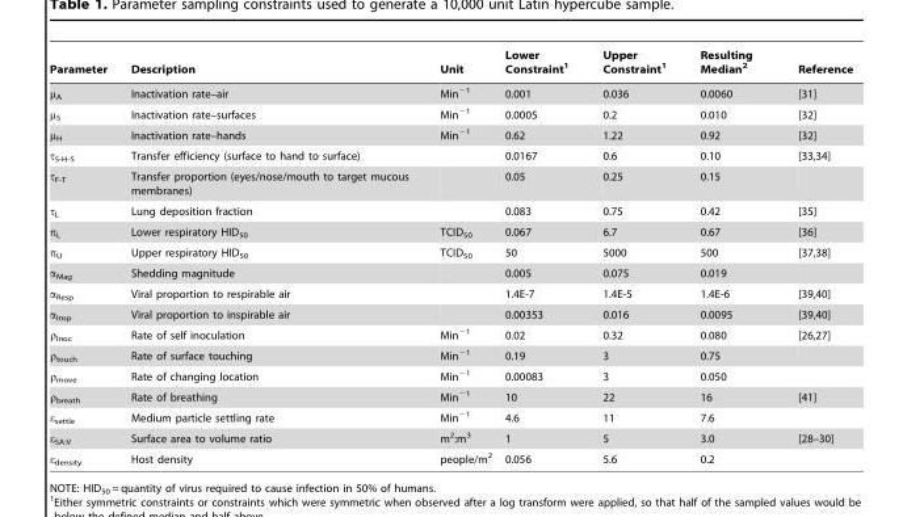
<table><thead><tr><td>Parameter</td><td>Description</td><td>Unit</td><td>Lower Constraint<sup>1</sup></td><td>Upper Constraint<sup>1</sup></td><td>Resulting Median<sup>2</sup></td><td>Reference</td></tr></thead><tbody><tr><td>μ<sub>A</sub></td><td>Inactivation rate–air</td><td>Min<sup>−1</sup></td><td>0.001</td><td>0.036</td><td>0.0060</td><td>[31]</td></tr><tr><td>μ<sub>S</sub></td><td>Inactivation rate–surfaces</td><td>Min<sup>−1</sup></td><td>0.0005</td><td>0.2</td><td>0.010</td><td>[32]</td></tr><tr><td>μ<sub>H</sub></td><td>Inactivation rate–hands</td><td>Min<sup>−1</sup></td><td>0.62</td><td>1.22</td><td>0.92</td><td>[32]</td></tr><tr><td>τ<sub>S-H-S</sub></td><td>Transfer efficiency (surface to hand to surface)</td><td></td><td>0.0167</td><td>0.6</td><td>0.10</td><td>[33,34]</td></tr><tr><td>τ<sub>F-T</sub></td><td>Transfer proportion (eyes/nose/mouth to target mucous membranes)</td><td></td><td>0.05</td><td>0.25</td><td>0.15</td><td></td></tr><tr><td>τ<sub>L</sub></td><td>Lung deposition fraction</td><td></td><td>0.083</td><td>0.75</td><td>0.42</td><td>[35]</td></tr><tr><td>π<sub>L</sub></td><td>Lower respiratory HID<sub>50</sub></td><td>TCID<sub>50</sub></td><td>0.067</td><td>6.7</td><td>0.67</td><td>[36]</td></tr><tr><td>π<sub>U</sub></td><td>Upper respiratory HID<sub>50</sub></td><td>TCID<sub>50</sub></td><td>50</td><td>5000</td><td>500</td><td>[37,38]</td></tr><tr><td>α<sub>Mag</sub></td><td>Shedding magnitude</td><td></td><td>0.005</td><td>0.075</td><td>0.019</td><td></td></tr><tr><td>α<sub>Resp</sub></td><td>Viral proportion to respirable air</td><td></td><td>1.4E-7</td><td>1.4E-5</td><td>1.4E-6</td><td>[39,40]</td></tr><tr><td>α<sub>Insp</sub></td><td>Viral proportion to inspirable air</td><td></td><td>0.00353</td><td>0.016</td><td>0.0095</td><td>[39,40]</td></tr><tr><td>ρ<sub>Inoc</sub></td><td>Rate of self inoculation</td><td>Min<sup>−1</sup></td><td>0.02</td><td>0.32</td><td>0.080</td><td>[26,27]</td></tr><tr><td>ρ<sub>touch</sub></td><td>Rate of surface touching</td><td>Min<sup>−1</sup></td><td>0.19</td><td>3</td><td>0.75</td><td></td></tr><tr><td>ρ<sub>move</sub></td><td>Rate of changing location</td><td>Min<sup>−1</sup></td><td>0.00083</td><td>3</td><td>0.050</td><td></td></tr><tr><td>ρ<sub>breath</sub></td><td>Rate of breathing</td><td>Min<sup>−1</sup></td><td>10</td><td>22</td><td>16</td><td>[41]</td></tr><tr><td>ε<sub>settle</sub></td><td>Medium particle settling rate</td><td>Min<sup>−1</sup></td><td>4.6</td><td>11</td><td>7.6</td><td></td></tr><tr><td>εSA:V</td><td>Surface area to volume ratio</td><td>m2:m3</td><td>1</td><td>5</td><td>3.0</td><td>[28–30]</td></tr><tr><td>ε<sub>density</sub></td><td>Host density</td><td>people/m<sup>2</sup></td><td>0.056</td><td>5.6</td><td>0.2</td><td></td></tr></tbody></table>